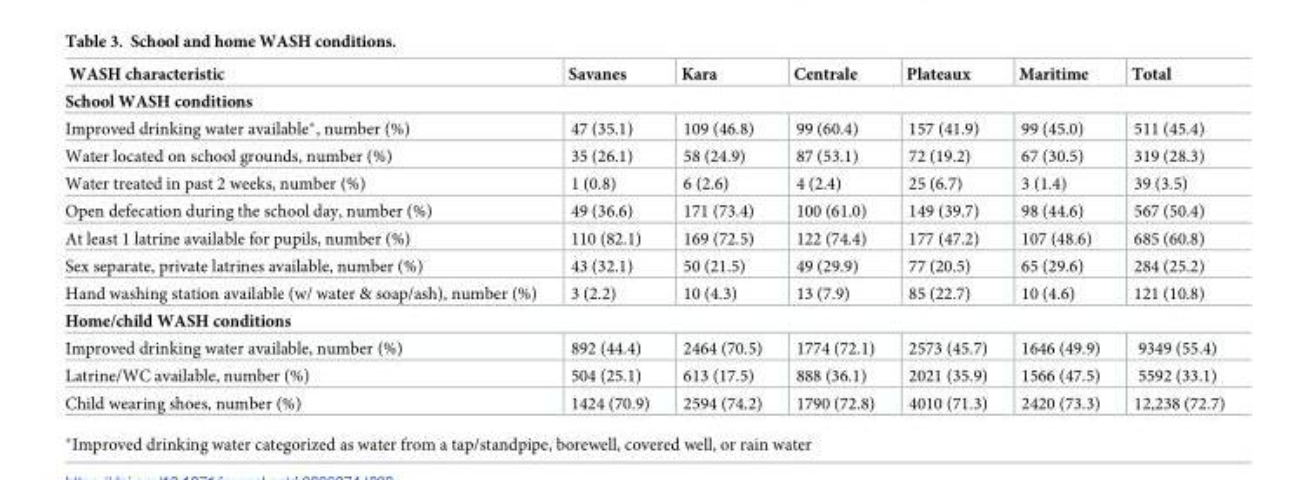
<table><thead><tr><td>WASH characteristic</td><td>Savanes</td><td>Kara</td><td>Centrale</td><td>Plateaux</td><td>Maritime</td><td>Total</td></tr></thead><tbody><tr><td colspan="7">School WASH conditions</td></tr><tr><td>Improved drinking water available*, number (%)</td><td>47 (35.1)</td><td>109 (46.8)</td><td>99 (60.4)</td><td>157 (41.9)</td><td>99 (45.0)</td><td>511 (45.4)</td></tr><tr><td>Water located on school grounds, number (%)</td><td>35 (26.1)</td><td>58 (24.9)</td><td>87 (53.1)</td><td>72 (19.2)</td><td>67 (30.5)</td><td>319 (28.3)</td></tr><tr><td>Water treated in past 2 weeks, number (%)</td><td>1 (0.8)</td><td>6 (2.6)</td><td>4 (2.4)</td><td>25 (6.7)</td><td>3 (1.4)</td><td>39 (3.5)</td></tr><tr><td>Open defecation during the school day, number (%)</td><td>49 (36.6)</td><td>171 (73.4)</td><td>100 (61.0)</td><td>149 (39.7)</td><td>98 (44.6)</td><td>567 (50.4)</td></tr><tr><td>At least 1 latrine available for pupils, number (%)</td><td>110 (82.1)</td><td>169 (72.5)</td><td>122 (74.4)</td><td>177 (47.2)</td><td>107 (48.6)</td><td>685 (60.8)</td></tr><tr><td>Sex separate, private latrines available, number (%)</td><td>43 (32.1)</td><td>50 (21.5)</td><td>49 (29.9)</td><td>77 (20.5)</td><td>65 (29.6)</td><td>284 (25.2)</td></tr><tr><td>Hand washing station available (w/ water &amp; soap/ash), number (%)</td><td>3 (2.2)</td><td>10 (4.3)</td><td>13 (7.9)</td><td>85 (22.7)</td><td>10 (4.6)</td><td>121 (10.8)</td></tr><tr><td colspan="7">Home/child WASH conditions</td></tr><tr><td>Improved drinking water available, number (%)</td><td>892 (44.4)</td><td>2464 (70.5)</td><td>1774 (72.1)</td><td>2573 (45.7)</td><td>1646 (49.9)</td><td>9349 (55.4)</td></tr><tr><td>Latrine/WC available, number (%)</td><td>504 (25.1)</td><td>613 (17.5)</td><td>888 (36.1)</td><td>2021 (35.9)</td><td>1566 (47.5)</td><td>5592 (33.1)</td></tr><tr><td>Child wearing shoes, number (%)</td><td>1424 (70.9)</td><td>2594 (74.2)</td><td>1790 (72.8)</td><td>4010 (71.3)</td><td>2420 (73.3)</td><td>12,238 (72.7)</td></tr></tbody></table>